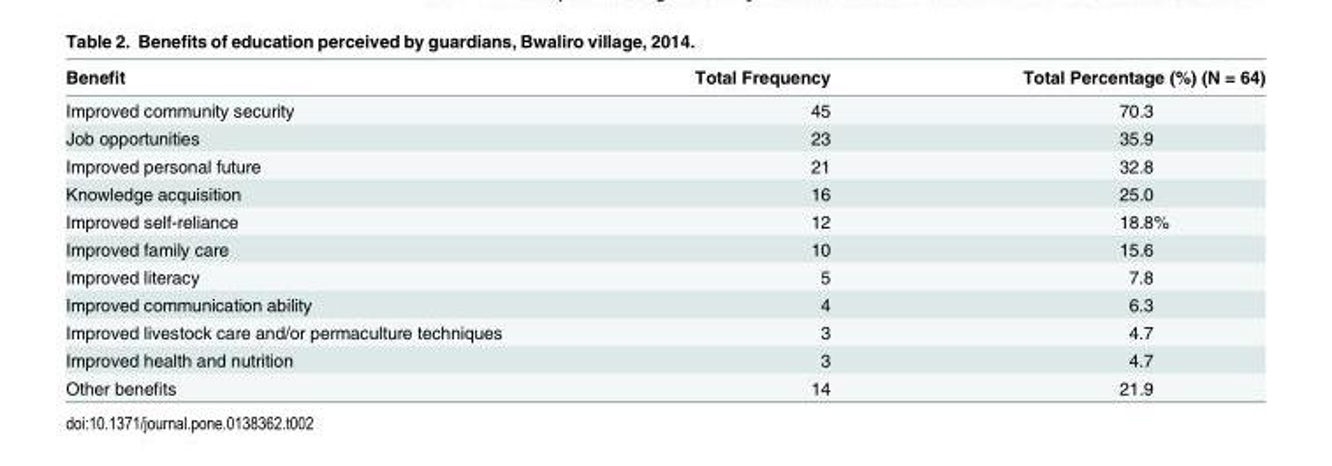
<table><thead><tr><td>Benefit</td><td>Total Frequency</td><td>Total Percentage (%) (N = 64)</td></tr></thead><tbody><tr><td>Improved community security</td><td>45</td><td>70.3</td></tr><tr><td>Job opportunities</td><td>23</td><td>35.9</td></tr><tr><td>Improved personal future</td><td>21</td><td>32.8</td></tr><tr><td>Knowledge acquisition</td><td>16</td><td>25.0</td></tr><tr><td>Improved self-reliance</td><td>12</td><td>18.8%</td></tr><tr><td>Improved family care</td><td>10</td><td>15.6</td></tr><tr><td>Improved literacy</td><td>5</td><td>7.8</td></tr><tr><td>Improved communication ability</td><td>4</td><td>6.3</td></tr><tr><td>Improved livestock care and/or permaculture techniques</td><td>3</td><td>4.7</td></tr><tr><td>Improved health and nutrition</td><td>3</td><td>4.7</td></tr><tr><td>Other benefits</td><td>14</td><td>21.9</td></tr></tbody></table>